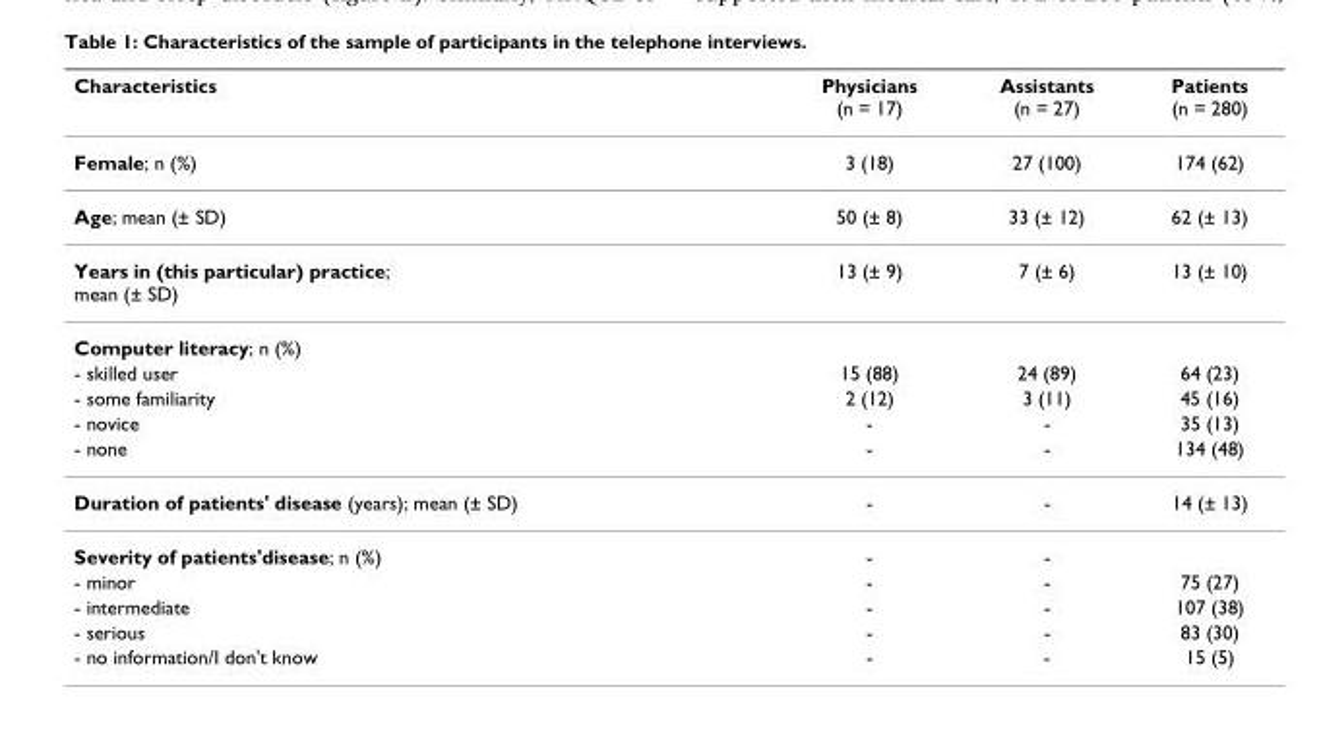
<table><thead><tr><td>Characteristics</td><td>Physicians (n = 17)</td><td>Assistants (n = 27)</td><td>Patients (n = 280)</td></tr></thead><tbody><tr><td>Female; n (%)</td><td>3 (18)</td><td>27 (100)</td><td>174 (62)</td></tr><tr><td>Age; mean (± SD)</td><td>50 (± 8)</td><td>33 (± 12)</td><td>62 (± 13)</td></tr><tr><td>Years in (this particular) practice; mean (± SD)</td><td>13 (± 9)</td><td>7 (± 6)</td><td>13 (± 10)</td></tr><tr><td colspan="4">Computer literacy; n (%)</td></tr><tr><td>- skilled user</td><td>15 (88)</td><td>24 (89)</td><td>64 (23)</td></tr><tr><td>- some familiarity</td><td>2 (12)</td><td>3 (11)</td><td>45 (16)</td></tr><tr><td>- novice</td><td>-</td><td>-</td><td>35 (13)</td></tr><tr><td>- none</td><td>-</td><td>-</td><td>134 (48)</td></tr><tr><td>Duration of patients&#x27; disease (years); mean (± SD)</td><td>-</td><td>-</td><td>14 (± 13)</td></tr><tr><td>Severity of patients&#x27;disease; n (%)</td><td>-</td><td>-</td><td></td></tr><tr><td>- minor</td><td>-</td><td>-</td><td>75 (27)</td></tr><tr><td>- intermediate</td><td>-</td><td>-</td><td>107 (38)</td></tr><tr><td>- serious</td><td>-</td><td>-</td><td>83 (30)</td></tr><tr><td>- no information/I don&#x27;t know</td><td>-</td><td>-</td><td>15 (5)</td></tr></tbody></table>